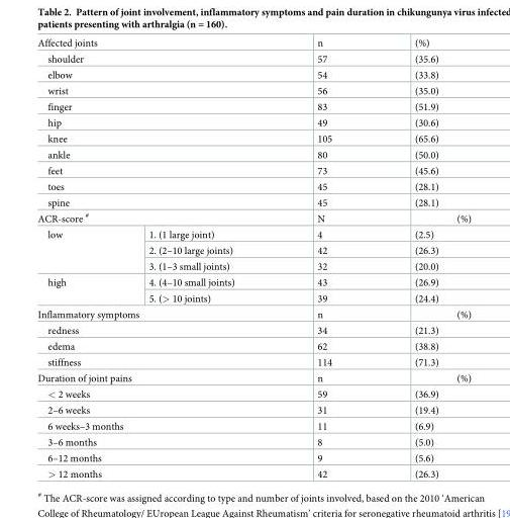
<table><tbody><tr><td colspan="2">Affected joints</td><td>n</td><td>(%)</td></tr><tr><td colspan="2">shoulder</td><td>57</td><td>(35.6)</td></tr><tr><td colspan="2">elbow</td><td>54</td><td>(33.8)</td></tr><tr><td colspan="2">wrist</td><td>56</td><td>(35.0)</td></tr><tr><td colspan="2">finger</td><td>83</td><td>(51.9)</td></tr><tr><td colspan="2">hip</td><td>49</td><td>(30.6)</td></tr><tr><td colspan="2">knee</td><td>105</td><td>(65.6)</td></tr><tr><td colspan="2">ankle</td><td>80</td><td>(50.0)</td></tr><tr><td colspan="2">feet</td><td>73</td><td>(45.6)</td></tr><tr><td colspan="2">toes</td><td>45</td><td>(28.1)</td></tr><tr><td colspan="2">spine</td><td>45</td><td>(28.1)</td></tr><tr><td colspan="2">ACR-score <sup>#</sup></td><td>N</td><td>(%)</td></tr><tr><td rowspan="3">low</td><td>1. (1 large joint)</td><td>4</td><td>(2.5)</td></tr><tr><td>2. (2–10 large joints)</td><td>42</td><td>(26.3)</td></tr><tr><td>3. (1–3 small joints)</td><td>32</td><td>(20.0)</td></tr><tr><td rowspan="2">high</td><td>4. (4–10 small joints)</td><td>43</td><td>(26.9)</td></tr><tr><td>5. (&gt; 10 joints)</td><td>39</td><td>(24.4)</td></tr><tr><td colspan="2">Inflammatory symptoms</td><td>n</td><td>(%)</td></tr><tr><td colspan="2">redness</td><td>34</td><td>(21.3)</td></tr><tr><td colspan="2">edema</td><td>62</td><td>(38.8)</td></tr><tr><td colspan="2">stiffness</td><td>114</td><td>(71.3)</td></tr><tr><td colspan="2">Duration of joint pains</td><td>n</td><td>(%)</td></tr><tr><td colspan="2">&lt; 2 weeks</td><td>59</td><td>(36.9)</td></tr><tr><td colspan="2">2–6 weeks</td><td>31</td><td>(19.4)</td></tr><tr><td colspan="2">6 weeks–3 months</td><td>11</td><td>(6.9)</td></tr><tr><td colspan="2">3–6 months</td><td>8</td><td>(5.0)</td></tr><tr><td colspan="2">6–12 months</td><td>9</td><td>(5.6)</td></tr><tr><td colspan="2">&gt; 12 months</td><td>42</td><td>(26.3)</td></tr></tbody></table>